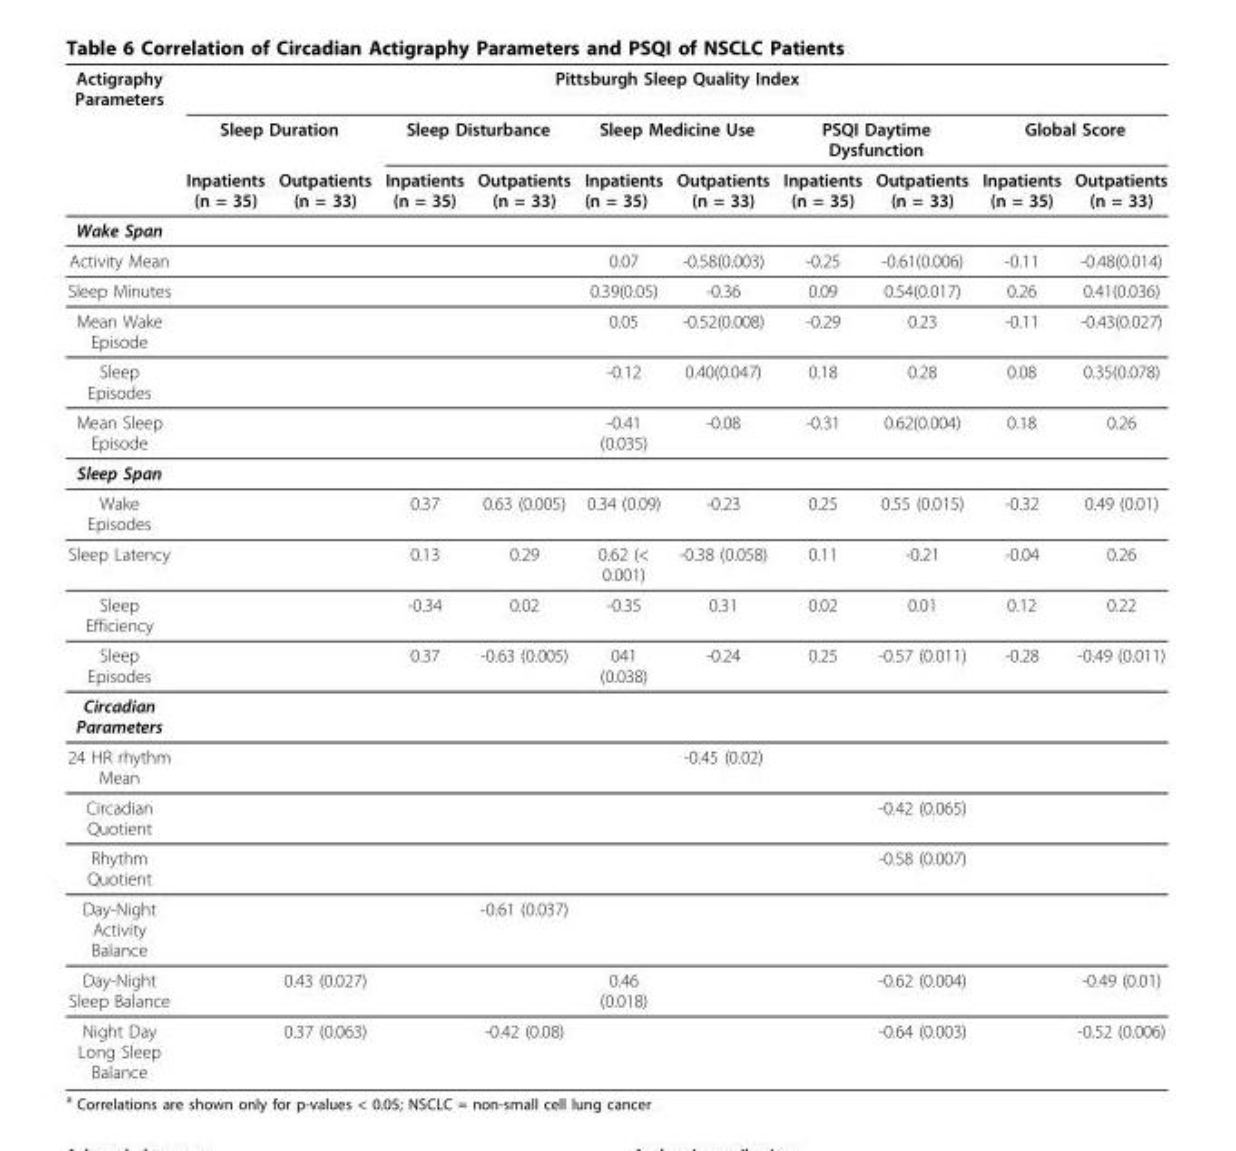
<table><thead><tr><td rowspan="3">Actigraphy Parameters</td><td colspan="10">Pittsburgh Sleep Quality Index</td></tr><tr><td colspan="2">Sleep Duration</td><td colspan="2">Sleep Disturbance</td><td colspan="2">Sleep Medicine Use</td><td colspan="2">PSQI Daytime Dysfunction</td><td colspan="2">Global Score</td></tr><tr><td>Inpatients (n = 35)</td><td>Outpatients (n = 33)</td><td>Inpatients (n = 35)</td><td>Outpatients (n = 33)</td><td>Inpatients (n = 35)</td><td>Outpatients (n = 33)</td><td>Inpatients (n = 35)</td><td>Outpatients (n = 33)</td><td>Inpatients (n = 35)</td><td>Outpatients (n = 33)</td></tr></thead><tbody><tr><td colspan="11">Wake Span</td></tr><tr><td>Activity Mean</td><td></td><td></td><td></td><td></td><td>0.07</td><td>-0.58(0.003)</td><td>-0.25</td><td>-0.61(0.006)</td><td>-0.11</td><td>-0.48(0.014)</td></tr><tr><td>Sleep Minutes</td><td></td><td></td><td></td><td></td><td>0.39(0.05)</td><td>-0.36</td><td>0.09</td><td>0.54(0.017)</td><td>0.26</td><td>0.41(0.036)</td></tr><tr><td>Mean Wake Episode</td><td></td><td></td><td></td><td></td><td>0.05</td><td>-0.52(0.008)</td><td>-0.29</td><td>0.23</td><td>-0.11</td><td>-0.43(0.027)</td></tr><tr><td>Sleep Episodes</td><td></td><td></td><td></td><td></td><td>-0.12</td><td>0.40(0.047)</td><td>0.18</td><td>0.28</td><td>0.08</td><td>0.35(0.078)</td></tr><tr><td>Mean Sleep Episode</td><td></td><td></td><td></td><td></td><td>-0.41 (0.035)</td><td>-0.08</td><td>-0.31</td><td>0.62(0.004)</td><td>0.18</td><td>0.26</td></tr><tr><td colspan="11">Sleep Span</td></tr><tr><td>Wake Episodes</td><td></td><td></td><td>0.37</td><td>0.63 (0.005)</td><td>0.34 (0.09)</td><td>-0.23</td><td>0.25</td><td>0.55 (0.015)</td><td>-0.32</td><td>0.49 (0.01)</td></tr><tr><td>Sleep Latency</td><td></td><td></td><td>0.13</td><td>0.29</td><td>0.62 (&lt; 0.001)</td><td>-0.38 (0.058)</td><td>0.11</td><td>-0.21</td><td>-0.04</td><td>0.26</td></tr><tr><td>Sleep Efficiency</td><td></td><td></td><td>-0.34</td><td>0.02</td><td>-0.35</td><td>0.31</td><td>0.02</td><td>0.01</td><td>0.12</td><td>0.22</td></tr><tr><td>Sleep Episodes</td><td></td><td></td><td>0.37</td><td>-0.63 (0.005)</td><td>041 (0.038)</td><td>-0.24</td><td>0.25</td><td>-0.57 (0.011)</td><td>-0.28</td><td>-0.49 (0.011)</td></tr><tr><td colspan="11">Circadian Parameters</td></tr><tr><td>24 HR rhythm Mean</td><td></td><td></td><td></td><td></td><td></td><td>-0.45 (0.02)</td><td></td><td></td><td></td><td></td></tr><tr><td>Circadian Quotient</td><td></td><td></td><td></td><td></td><td></td><td></td><td></td><td>-0.42 (0.065)</td><td></td><td></td></tr><tr><td>Rhythm Quotient</td><td></td><td></td><td></td><td></td><td></td><td></td><td></td><td>-0.58 (0.007)</td><td></td><td></td></tr><tr><td>Day-Night Activity Balance</td><td></td><td></td><td></td><td>-0.61 (0.037)</td><td></td><td></td><td></td><td></td><td></td><td></td></tr><tr><td>Day-Night Sleep Balance</td><td></td><td>0.43 (0.027)</td><td></td><td></td><td>0.46 (0.018)</td><td></td><td></td><td>-0.62 (0.004)</td><td></td><td>-0.49 (0.01)</td></tr><tr><td>Night Day Long Sleep Balance</td><td></td><td>0.37 (0.063)</td><td></td><td>-0.42 (0.08)</td><td></td><td></td><td></td><td>-0.64 (0.003)</td><td></td><td>-0.52 (0.006)</td></tr></tbody></table>